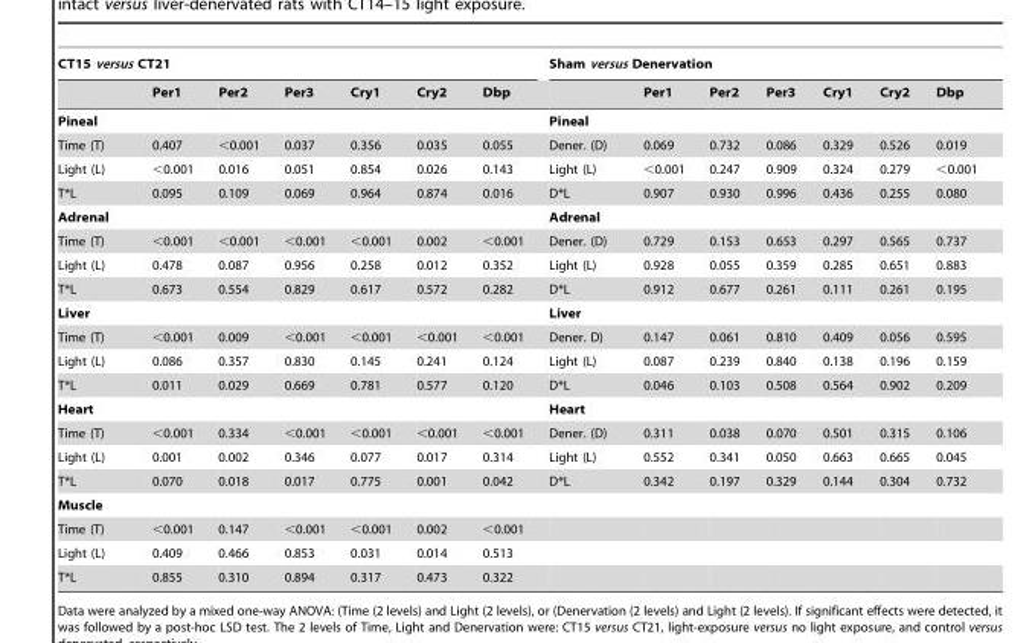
<table><thead><tr><td colspan="7">CT15 versus CT21</td><td colspan="7">Sham versus Denervation</td></tr><tr><td></td><td>Per1</td><td>Per2</td><td>Per3</td><td>Cry1</td><td>Cry2</td><td>Dbp</td><td></td><td>Per1</td><td>Per2</td><td>Per3</td><td>Cry1</td><td>Cry2</td><td>Dbp</td></tr></thead><tbody><tr><td colspan="7">Pineal</td><td colspan="7">Pineal</td></tr><tr><td>Time (T)</td><td>0.407</td><td>&lt;0.001</td><td>0.037</td><td>0.356</td><td>0.035</td><td>0.055</td><td>Dener. (D)</td><td>0.069</td><td>0.732</td><td>0.086</td><td>0.329</td><td>0.526</td><td>0.019</td></tr><tr><td>Light (L)</td><td>&lt;0.001</td><td>0.016</td><td>0.051</td><td>0.854</td><td>0.026</td><td>0.143</td><td>Light (L)</td><td>&lt;0.001</td><td>0.247</td><td>0.909</td><td>0.324</td><td>0.279</td><td>&lt;0.001</td></tr><tr><td>T*L</td><td>0.095</td><td>0.109</td><td>0.069</td><td>0.964</td><td>0.874</td><td>0.016</td><td>D*L</td><td>0.907</td><td>0.930</td><td>0.996</td><td>0.436</td><td>0.255</td><td>0.080</td></tr><tr><td colspan="7">Adrenal</td><td colspan="7">Adrenal</td></tr><tr><td>Time (T)</td><td>&lt;0.001</td><td>&lt;0.001</td><td>&lt;0.001</td><td>&lt;0.001</td><td>0.002</td><td>&lt;0.001</td><td>Dener. (D)</td><td>0.729</td><td>0.153</td><td>0.653</td><td>0.297</td><td>0.565</td><td>0.737</td></tr><tr><td>Light (L)</td><td>0.478</td><td>0.087</td><td>0.956</td><td>0.258</td><td>0.012</td><td>0.352</td><td>Light (L)</td><td>0.928</td><td>0.055</td><td>0.359</td><td>0.285</td><td>0.651</td><td>0.883</td></tr><tr><td>T*L</td><td>0.673</td><td>0.554</td><td>0.829</td><td>0.617</td><td>0.572</td><td>0.282</td><td>D*L</td><td>0.912</td><td>0.677</td><td>0.261</td><td>0.111</td><td>0.261</td><td>0.195</td></tr><tr><td colspan="7">Liver</td><td colspan="7">Liver</td></tr><tr><td>Time (T)</td><td>&lt;0.001</td><td>0.009</td><td>&lt;0.001</td><td>&lt;0.001</td><td>&lt;0.001</td><td>&lt;0.001</td><td>Dener. D)</td><td>0.147</td><td>0.061</td><td>0.810</td><td>0.409</td><td>0.056</td><td>0.595</td></tr><tr><td>Light (L)</td><td>0.086</td><td>0.357</td><td>0.830</td><td>0.145</td><td>0.241</td><td>0.124</td><td>Light (L)</td><td>0.087</td><td>0.239</td><td>0.840</td><td>0.138</td><td>0.196</td><td>0.159</td></tr><tr><td>T*L</td><td>0.011</td><td>0.029</td><td>0.669</td><td>0.781</td><td>0.577</td><td>0.120</td><td>D*L</td><td>0.046</td><td>0.103</td><td>0.508</td><td>0.564</td><td>0.902</td><td>0.209</td></tr><tr><td colspan="7">Heart</td><td colspan="7">Heart</td></tr><tr><td>Time (T)</td><td>&lt;0.001</td><td>0.334</td><td>&lt;0.001</td><td>&lt;0.001</td><td>&lt;0.001</td><td>&lt;0.001</td><td>Dener. (D)</td><td>0.311</td><td>0.038</td><td>0.070</td><td>0.501</td><td>0.315</td><td>0.106</td></tr><tr><td>Light (L)</td><td>0.001</td><td>0.002</td><td>0.346</td><td>0.077</td><td>0.017</td><td>0.314</td><td>Light (L)</td><td>0.552</td><td>0.341</td><td>0.050</td><td>0.663</td><td>0.665</td><td>0.045</td></tr><tr><td>T*L</td><td>0.070</td><td>0.018</td><td>0.017</td><td>0.775</td><td>0.001</td><td>0.042</td><td>D*L</td><td>0.342</td><td>0.197</td><td>0.329</td><td>0.144</td><td>0.304</td><td>0.732</td></tr><tr><td colspan="14">Muscle</td></tr><tr><td>Time (T)</td><td>&lt;0.001</td><td>0.147</td><td>&lt;0.001</td><td>&lt;0.001</td><td>0.002</td><td>&lt;0.001</td><td></td><td></td><td></td><td></td><td></td><td></td><td></td></tr><tr><td>Light (L)</td><td>0.409</td><td>0.466</td><td>0.853</td><td>0.031</td><td>0.014</td><td>0.513</td><td></td><td></td><td></td><td></td><td></td><td></td><td></td></tr><tr><td>T*L</td><td>0.855</td><td>0.310</td><td>0.894</td><td>0.317</td><td>0.473</td><td>0.322</td><td></td><td></td><td></td><td></td><td></td><td></td><td></td></tr></tbody></table>